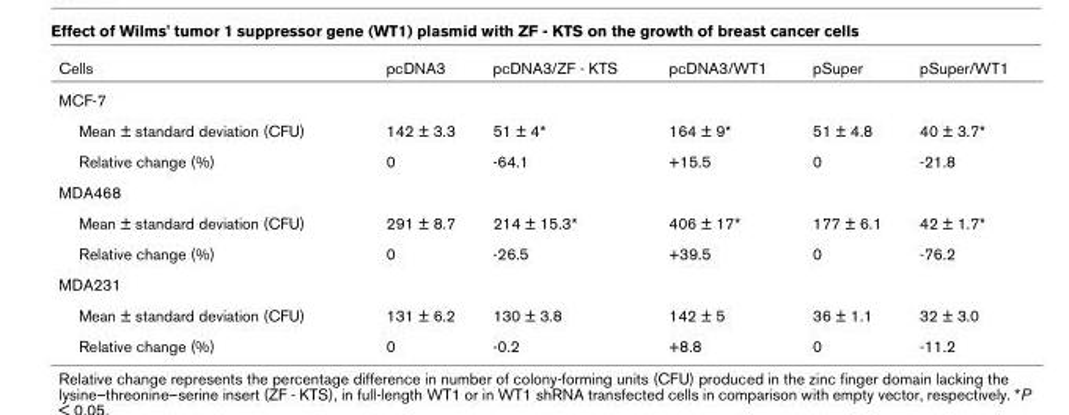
<table><thead><tr><td>Cells</td><td>pcDNA3</td><td>pcDNA3/ZF - KTS</td><td>pcDNA3/WT1</td><td>pSuper</td><td>pSuper/WT1</td></tr></thead><tbody><tr><td colspan="6">MCF-7</td></tr><tr><td>Mean ± standard deviation (CFU)</td><td>142 ± 3.3</td><td>51 ± 4*</td><td>164 ± 9*</td><td>51 ± 4.8</td><td>40 ± 3.7*</td></tr><tr><td>Relative change (%)</td><td>0</td><td>-64.1</td><td>+15.5</td><td>0</td><td>-21.8</td></tr><tr><td colspan="6">MDA468</td></tr><tr><td>Mean ± standard deviation (CFU)</td><td>291 ± 8.7</td><td>214 ± 15.3*</td><td>406 ± 17*</td><td>177 ± 6.1</td><td>42 ± 1.7*</td></tr><tr><td>Relative change (%)</td><td>0</td><td>-26.5</td><td>+39.5</td><td>0</td><td>-76.2</td></tr><tr><td colspan="6">MDA231</td></tr><tr><td>Mean ± standard deviation (CFU)</td><td>131 ± 6.2</td><td>130 ± 3.8</td><td>142 ± 5</td><td>36 ± 1.1</td><td>32 ± 3.0</td></tr><tr><td>Relative change (%)</td><td>0</td><td>-0.2</td><td>+8.8</td><td>0</td><td>-11.2</td></tr></tbody></table>